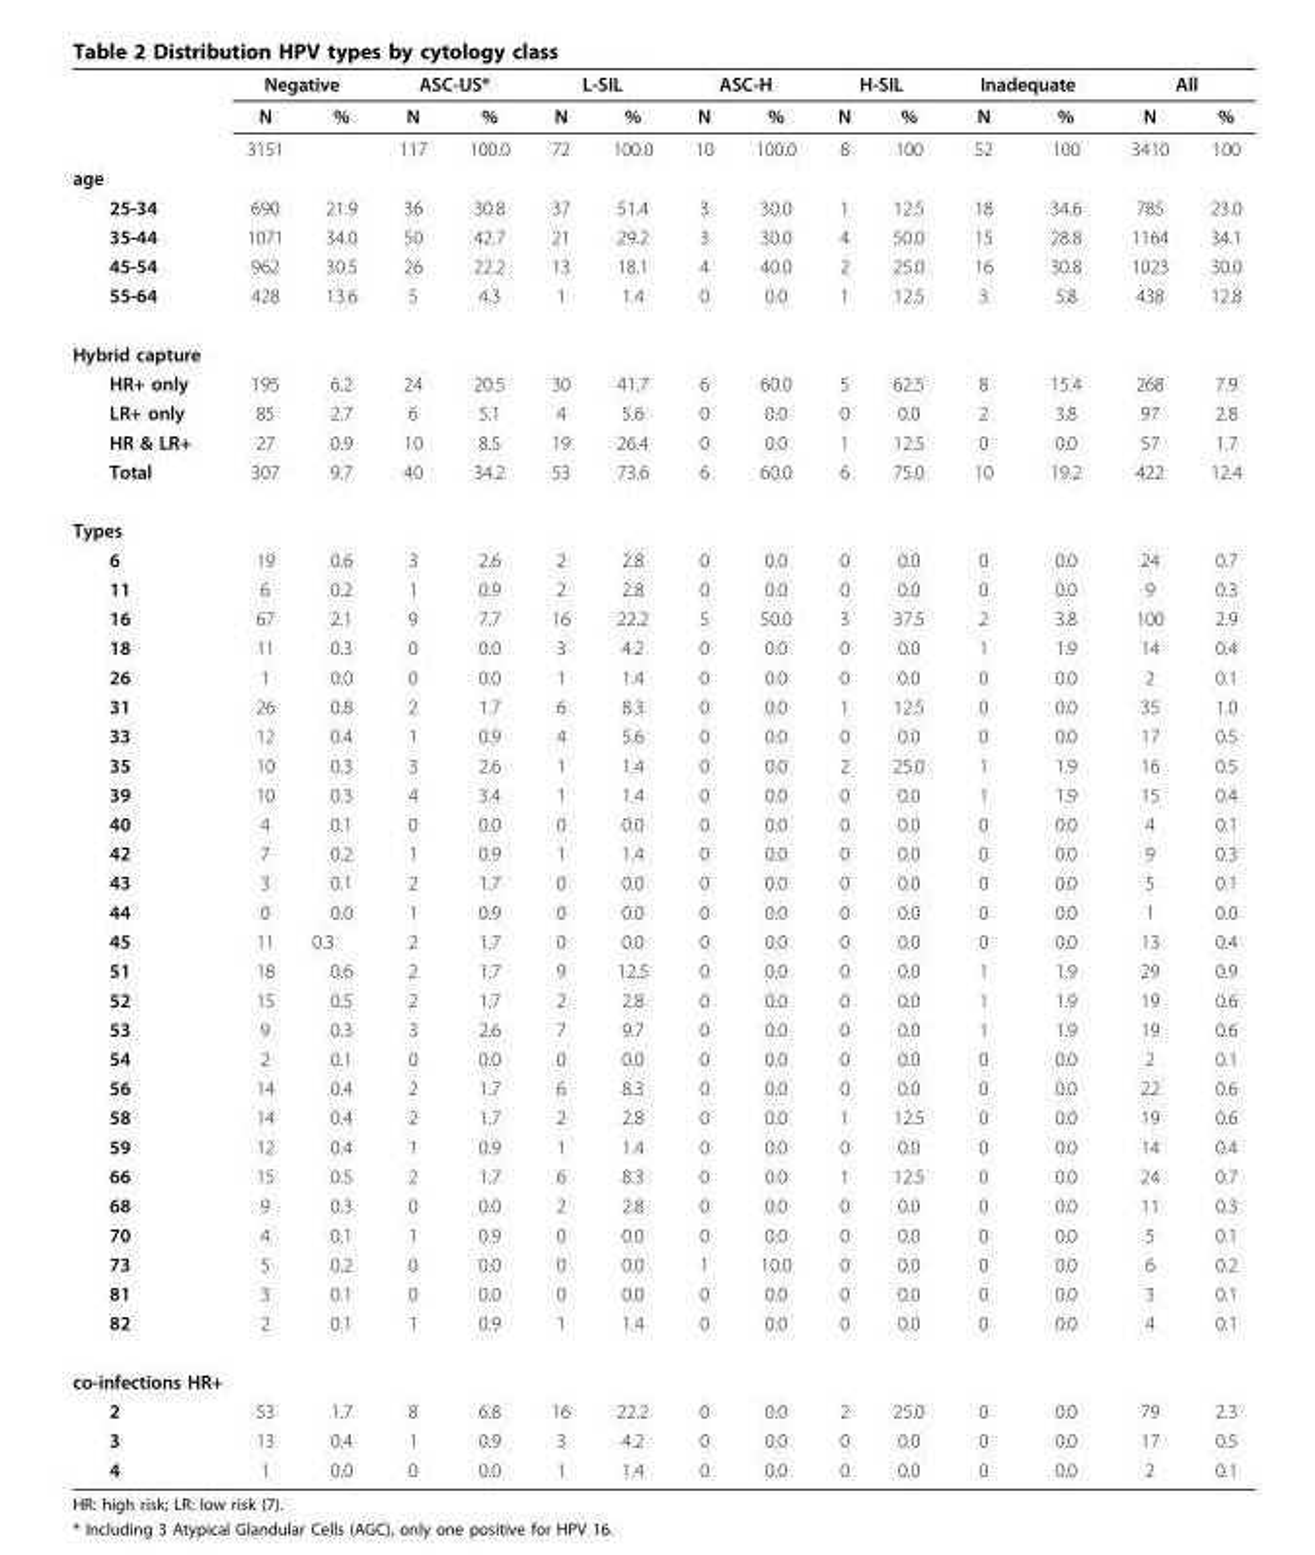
<table><thead><tr><td rowspan="2"></td><td colspan="2">Negative</td><td colspan="2">ASC-US*</td><td colspan="2">L-SIL</td><td colspan="2">ASC-H</td><td colspan="2">H-SIL</td><td colspan="2">Inadequate</td><td colspan="2">All</td></tr><tr><td>N</td><td>%</td><td>N</td><td>%</td><td>N</td><td>%</td><td>N</td><td>%</td><td>N</td><td>%</td><td>N</td><td>%</td><td>N</td><td>%</td></tr></thead><tbody><tr><td></td><td>3151</td><td></td><td>117</td><td>100.0</td><td>72</td><td>100.0</td><td>10</td><td>100.0</td><td>8</td><td>100</td><td>52</td><td>100</td><td>3410</td><td>100</td></tr><tr><td colspan="15">age</td></tr><tr><td>25-34</td><td>690</td><td>21.9</td><td>36</td><td>30.8</td><td>37</td><td>51.4</td><td>3</td><td>30.0</td><td>1</td><td>12.5</td><td>18</td><td>34.6</td><td>785</td><td>23.0</td></tr><tr><td>35-44</td><td>1071</td><td>34.0</td><td>50</td><td>42.7</td><td>21</td><td>29.2</td><td>3</td><td>30.0</td><td>4</td><td>50.0</td><td>15</td><td>28.8</td><td>1164</td><td>34.1</td></tr><tr><td>45-54</td><td>962</td><td>30.5</td><td>26</td><td>22.2</td><td>13</td><td>18.1</td><td>4</td><td>40.0</td><td>2</td><td>25.0</td><td>16</td><td>30.8</td><td>1023</td><td>30.0</td></tr><tr><td>55-64</td><td>428</td><td>13.6</td><td>5</td><td>4.3</td><td>1</td><td>1.4</td><td>0</td><td>0.0</td><td>1</td><td>12.5</td><td>3</td><td>5.8</td><td>438</td><td>12.8</td></tr><tr><td colspan="15">Hybrid capture</td></tr><tr><td>HR+ only</td><td>195</td><td>6.2</td><td>24</td><td>20.5</td><td>30</td><td>41.7</td><td>6</td><td>60.0</td><td>5</td><td>62.5</td><td>8</td><td>15.4</td><td>268</td><td>7.9</td></tr><tr><td>LR+ only</td><td>85</td><td>2.7</td><td>6</td><td>5.1</td><td>4</td><td>5.6</td><td>0</td><td>0.0</td><td>0</td><td>0.0</td><td>2</td><td>3.8</td><td>97</td><td>2.8</td></tr><tr><td>HR &amp; LR+</td><td>27</td><td>0.9</td><td>10</td><td>8.5</td><td>19</td><td>26.4</td><td>0</td><td>0.0</td><td>1</td><td>12.5</td><td>0</td><td>0.0</td><td>57</td><td>1.7</td></tr><tr><td>Total</td><td>307</td><td>9.7</td><td>40</td><td>34.2</td><td>53</td><td>73.6</td><td>6</td><td>60.0</td><td>6</td><td>75.0</td><td>10</td><td>19.2</td><td>422</td><td>12.4</td></tr><tr><td colspan="15">Types</td></tr><tr><td>6</td><td>19</td><td>0.6</td><td>3</td><td>2.6</td><td>2</td><td>2.8</td><td>0</td><td>0.0</td><td>0</td><td>0.0</td><td>0</td><td>0.0</td><td>24</td><td>0.7</td></tr><tr><td>11</td><td>6</td><td>0.2</td><td>1</td><td>0.9</td><td>2</td><td>2.8</td><td>0</td><td>0.0</td><td>0</td><td>0.0</td><td>0</td><td>0.0</td><td>9</td><td>0.3</td></tr><tr><td>16</td><td>67</td><td>2.1</td><td>9</td><td>7.7</td><td>16</td><td>22.2</td><td>5</td><td>50.0</td><td>3</td><td>37.5</td><td>2</td><td>3.8</td><td>100</td><td>2.9</td></tr><tr><td>18</td><td>11</td><td>0.3</td><td>0</td><td>0.0</td><td>3</td><td>4.2</td><td>0</td><td>0.0</td><td>0</td><td>0.0</td><td>1</td><td>1.9</td><td>14</td><td>0.4</td></tr><tr><td>26</td><td>1</td><td>0.0</td><td>0</td><td>0.0</td><td>1</td><td>1.4</td><td>0</td><td>0.0</td><td>0</td><td>0.0</td><td>0</td><td>0.0</td><td>2</td><td>0.1</td></tr><tr><td>31</td><td>26</td><td>0.8</td><td>2</td><td>1.7</td><td>6</td><td>8.3</td><td>0</td><td>0.0</td><td>1</td><td>12.5</td><td>0</td><td>0.0</td><td>35</td><td>1.0</td></tr><tr><td>33</td><td>12</td><td>0.4</td><td>1</td><td>0.9</td><td>4</td><td>5.6</td><td>0</td><td>0.0</td><td>0</td><td>0.0</td><td>0</td><td>0.0</td><td>17</td><td>0.5</td></tr><tr><td>35</td><td>10</td><td>0.3</td><td>3</td><td>2.6</td><td>1</td><td>1.4</td><td>0</td><td>0.0</td><td>2</td><td>25.0</td><td>1</td><td>1.9</td><td>16</td><td>0.5</td></tr><tr><td>39</td><td>10</td><td>0.3</td><td>4</td><td>3.4</td><td>1</td><td>1.4</td><td>0</td><td>0.0</td><td>0</td><td>0.0</td><td>1</td><td>1.9</td><td>15</td><td>0.4</td></tr><tr><td>40</td><td>4</td><td>0.1</td><td>0</td><td>0.0</td><td>0</td><td>0.0</td><td>0</td><td>0.0</td><td>0</td><td>0.0</td><td>0</td><td>0.0</td><td>4</td><td>0.1</td></tr><tr><td>42</td><td>7</td><td>0.2</td><td>1</td><td>0.9</td><td>1</td><td>1.4</td><td>0</td><td>0.0</td><td>0</td><td>0.0</td><td>0</td><td>0.0</td><td>9</td><td>0.3</td></tr><tr><td>43</td><td>3</td><td>0.1</td><td>2</td><td>1.7</td><td>0</td><td>0.0</td><td>0</td><td>0.0</td><td>0</td><td>0.0</td><td>0</td><td>0.0</td><td>5</td><td>0.1</td></tr><tr><td>44</td><td>0</td><td>0.0</td><td>1</td><td>0.9</td><td>0</td><td>0.0</td><td>0</td><td>0.0</td><td>0</td><td>0.0</td><td>0</td><td>0.0</td><td>1</td><td>0.0</td></tr><tr><td>45</td><td>11</td><td>0.3</td><td>2</td><td>1.7</td><td>0</td><td>0.0</td><td>0</td><td>0.0</td><td>0</td><td>0.0</td><td>0</td><td>0.0</td><td>13</td><td>0.4</td></tr><tr><td>51</td><td>18</td><td>0.6</td><td>2</td><td>1.7</td><td>9</td><td>12.5</td><td>0</td><td>0.0</td><td>0</td><td>0.0</td><td>1</td><td>1.9</td><td>29</td><td>0.9</td></tr><tr><td>52</td><td>15</td><td>0.5</td><td>2</td><td>1.7</td><td>2</td><td>2.8</td><td>0</td><td>0.0</td><td>0</td><td>0.0</td><td>1</td><td>1.9</td><td>19</td><td>0.6</td></tr><tr><td>53</td><td>9</td><td>0.3</td><td>3</td><td>2.6</td><td>7</td><td>9.7</td><td>0</td><td>0.0</td><td>0</td><td>0.0</td><td>1</td><td>1.9</td><td>19</td><td>0.6</td></tr><tr><td>54</td><td>2</td><td>0.1</td><td>0</td><td>0.0</td><td>0</td><td>0.0</td><td>0</td><td>0.0</td><td>0</td><td>0.0</td><td>0</td><td>0.0</td><td>2</td><td>0.1</td></tr><tr><td>56</td><td>14</td><td>0.4</td><td>2</td><td>1.7</td><td>6</td><td>8.3</td><td>0</td><td>0.0</td><td>0</td><td>0.0</td><td>0</td><td>0.0</td><td>22</td><td>0.6</td></tr><tr><td>58</td><td>14</td><td>0.4</td><td>2</td><td>1.7</td><td>2</td><td>2.8</td><td>0</td><td>0.0</td><td>1</td><td>12.5</td><td>0</td><td>0.0</td><td>19</td><td>0.6</td></tr><tr><td>59</td><td>12</td><td>0.4</td><td>1</td><td>0.9</td><td>1</td><td>1.4</td><td>0</td><td>0.0</td><td>0</td><td>0.0</td><td>0</td><td>0.0</td><td>14</td><td>0.4</td></tr><tr><td>66</td><td>15</td><td>0.5</td><td>2</td><td>1.7</td><td>6</td><td>8.3</td><td>0</td><td>0.0</td><td>1</td><td>12.5</td><td>0</td><td>0.0</td><td>24</td><td>0.7</td></tr><tr><td>68</td><td>9</td><td>0.3</td><td>0</td><td>0.0</td><td>2</td><td>2.8</td><td>0</td><td>0.0</td><td>0</td><td>0.0</td><td>0</td><td>0.0</td><td>11</td><td>0.3</td></tr><tr><td>70</td><td>4</td><td>0.1</td><td>1</td><td>0.9</td><td>0</td><td>0.0</td><td>0</td><td>0.0</td><td>0</td><td>0.0</td><td>0</td><td>0.0</td><td>5</td><td>0.1</td></tr><tr><td>73</td><td>5</td><td>0.2</td><td>0</td><td>0.0</td><td>0</td><td>0.0</td><td>1</td><td>10.0</td><td>0</td><td>0.0</td><td>0</td><td>0.0</td><td>6</td><td>0.2</td></tr><tr><td>81</td><td>3</td><td>0.1</td><td>0</td><td>0.0</td><td>0</td><td>0.0</td><td>0</td><td>0.0</td><td>0</td><td>0.0</td><td>0</td><td>0.0</td><td>3</td><td>0.1</td></tr><tr><td>82</td><td>2</td><td>0.1</td><td>1</td><td>0.9</td><td>1</td><td>1.4</td><td>0</td><td>0.0</td><td>0</td><td>0.0</td><td>0</td><td>0.0</td><td>4</td><td>0.1</td></tr><tr><td colspan="15">co-infections HR+</td></tr><tr><td>2</td><td>53</td><td>1.7</td><td>8</td><td>6.8</td><td>16</td><td>22.2</td><td>0</td><td>0.0</td><td>2</td><td>25.0</td><td>0</td><td>0.0</td><td>79</td><td>2.3</td></tr><tr><td>3</td><td>13</td><td>0.4</td><td>1</td><td>0.9</td><td>3</td><td>4.2</td><td>0</td><td>0.0</td><td>0</td><td>0.0</td><td>0</td><td>0.0</td><td>17</td><td>0.5</td></tr><tr><td>4</td><td>1</td><td>0.0</td><td>0</td><td>0.0</td><td>1</td><td>1.4</td><td>0</td><td>0.0</td><td>0</td><td>0.0</td><td>0</td><td>0.0</td><td>2</td><td>0.1</td></tr></tbody></table>